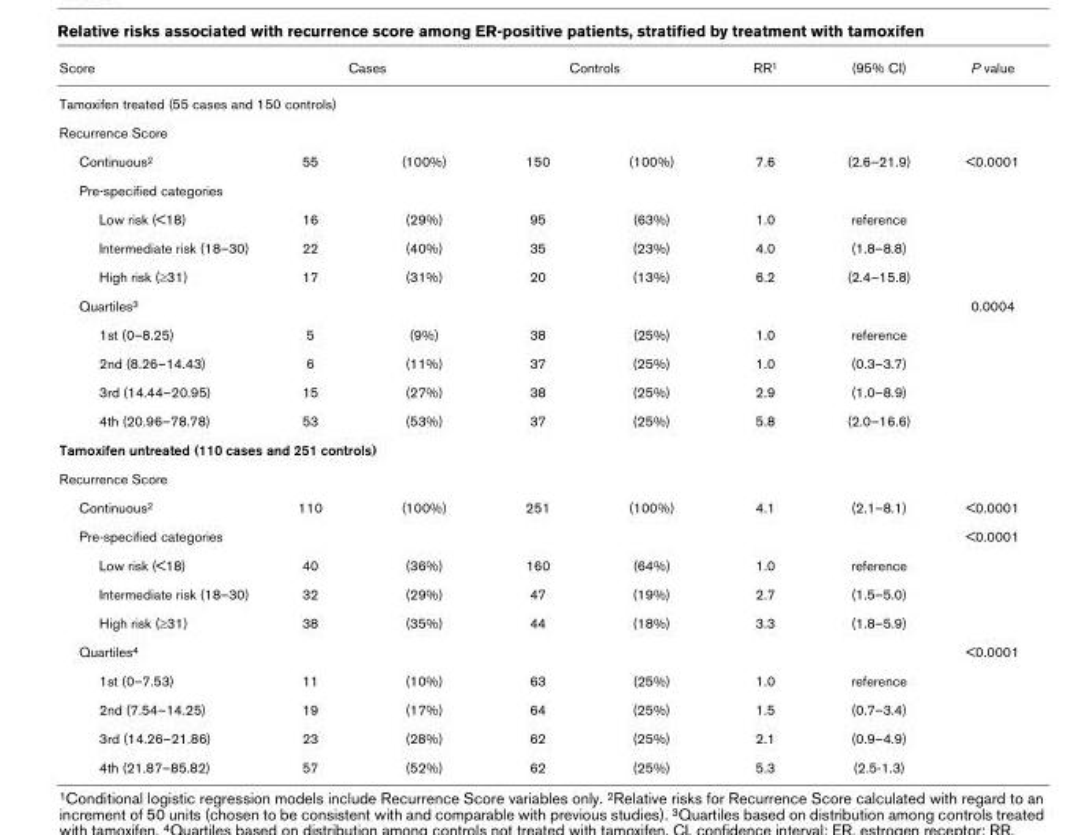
<table><thead><tr><td>Score</td><td colspan="2">Cases</td><td colspan="2">Controls</td><td>RR1</td><td>(95% CI)</td><td>P value</td></tr><tr><td colspan="8">Tamoxifen treated (55 cases and 150 controls)</td></tr><tr><td>Recurrence Score</td><td></td><td></td><td></td><td></td><td></td><td></td><td></td></tr></thead><tbody><tr><td>Continuous2</td><td>55</td><td>(100%)</td><td>150</td><td>(100%)</td><td>7.6</td><td>(2.6–21.9)</td><td>&lt;0.0001</td></tr><tr><td colspan="8">Pre-specified categories</td></tr><tr><td>Low risk (&lt;18)</td><td>16</td><td>(29%)</td><td>95</td><td>(63%)</td><td>1.0</td><td>reference</td><td></td></tr><tr><td>Intermediate risk (18–30)</td><td>22</td><td>(40%)</td><td>35</td><td>(23%)</td><td>4.0</td><td>(1.8–8.8)</td><td></td></tr><tr><td>High risk (≥31)</td><td>17</td><td>(31%)</td><td>20</td><td>(13%)</td><td>6.2</td><td>(2.4–15.8)</td><td></td></tr><tr><td>Quartiles3</td><td></td><td></td><td></td><td></td><td></td><td></td><td>0.0004</td></tr><tr><td>1st (0–8.25)</td><td>5</td><td>(9%)</td><td>38</td><td>(25%)</td><td>1.0</td><td>reference</td><td></td></tr><tr><td>2nd (8.26–14.43)</td><td>6</td><td>(11%)</td><td>37</td><td>(25%)</td><td>1.0</td><td>(0.3–3.7)</td><td></td></tr><tr><td>3rd (14.44–20.95)</td><td>15</td><td>(27%)</td><td>38</td><td>(25%)</td><td>2.9</td><td>(1.0–8.9)</td><td></td></tr><tr><td>4th (20.96–78.78)</td><td>53</td><td>(53%)</td><td>37</td><td>(25%)</td><td>5.8</td><td>(2.0–16.6)</td><td></td></tr><tr><td colspan="8">Tamoxifen untreated (110 cases and 251 controls)</td></tr><tr><td colspan="8">Recurrence Score</td></tr><tr><td>Continuous2</td><td>110</td><td>(100%)</td><td>251</td><td>(100%)</td><td>4.1</td><td>(2.1–8.1)</td><td>&lt;0.0001</td></tr><tr><td>Pre-specified categories</td><td></td><td></td><td></td><td></td><td></td><td></td><td>&lt;0.0001</td></tr><tr><td>Low risk (&lt;18)</td><td>40</td><td>(36%)</td><td>160</td><td>(64%)</td><td>1.0</td><td>reference</td><td></td></tr><tr><td>Intermediate risk (18–30)</td><td>32</td><td>(29%)</td><td>47</td><td>(19%)</td><td>2.7</td><td>(1.5–5.0)</td><td></td></tr><tr><td>High risk (≥31)</td><td>38</td><td>(35%)</td><td>44</td><td>(18%)</td><td>3.3</td><td>(1.8–5.9)</td><td></td></tr><tr><td>Quartiles4</td><td></td><td></td><td></td><td></td><td></td><td></td><td>&lt;0.0001</td></tr><tr><td>1st (0–7.53)</td><td>11</td><td>(10%)</td><td>63</td><td>(25%)</td><td>1.0</td><td>reference</td><td></td></tr><tr><td>2nd (7.54–14.25)</td><td>19</td><td>(17%)</td><td>64</td><td>(25%)</td><td>1.5</td><td>(0.7–3.4)</td><td></td></tr><tr><td>3rd (14.26–21.86)</td><td>23</td><td>(28%)</td><td>62</td><td>(25%)</td><td>2.1</td><td>(0.9–4.9)</td><td></td></tr><tr><td>4th (21.87–85.82)</td><td>57</td><td>(52%)</td><td>62</td><td>(25%)</td><td>5.3</td><td>(2.5-1.3)</td><td></td></tr></tbody></table>